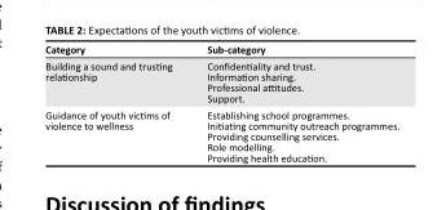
<table><thead><tr><td>Category</td><td>Sub-category</td></tr></thead><tbody><tr><td>Building a sound and trusting relationship</td><td>Confidentiality and trust. Information sharing. Professional attitudes. Support.</td></tr><tr><td>Guidance of youth victims of violence to wellness</td><td>Establishing school programmes. Initiating community outreach programmes. Providing counselling services. Role modelling. Providing health education.</td></tr></tbody></table>